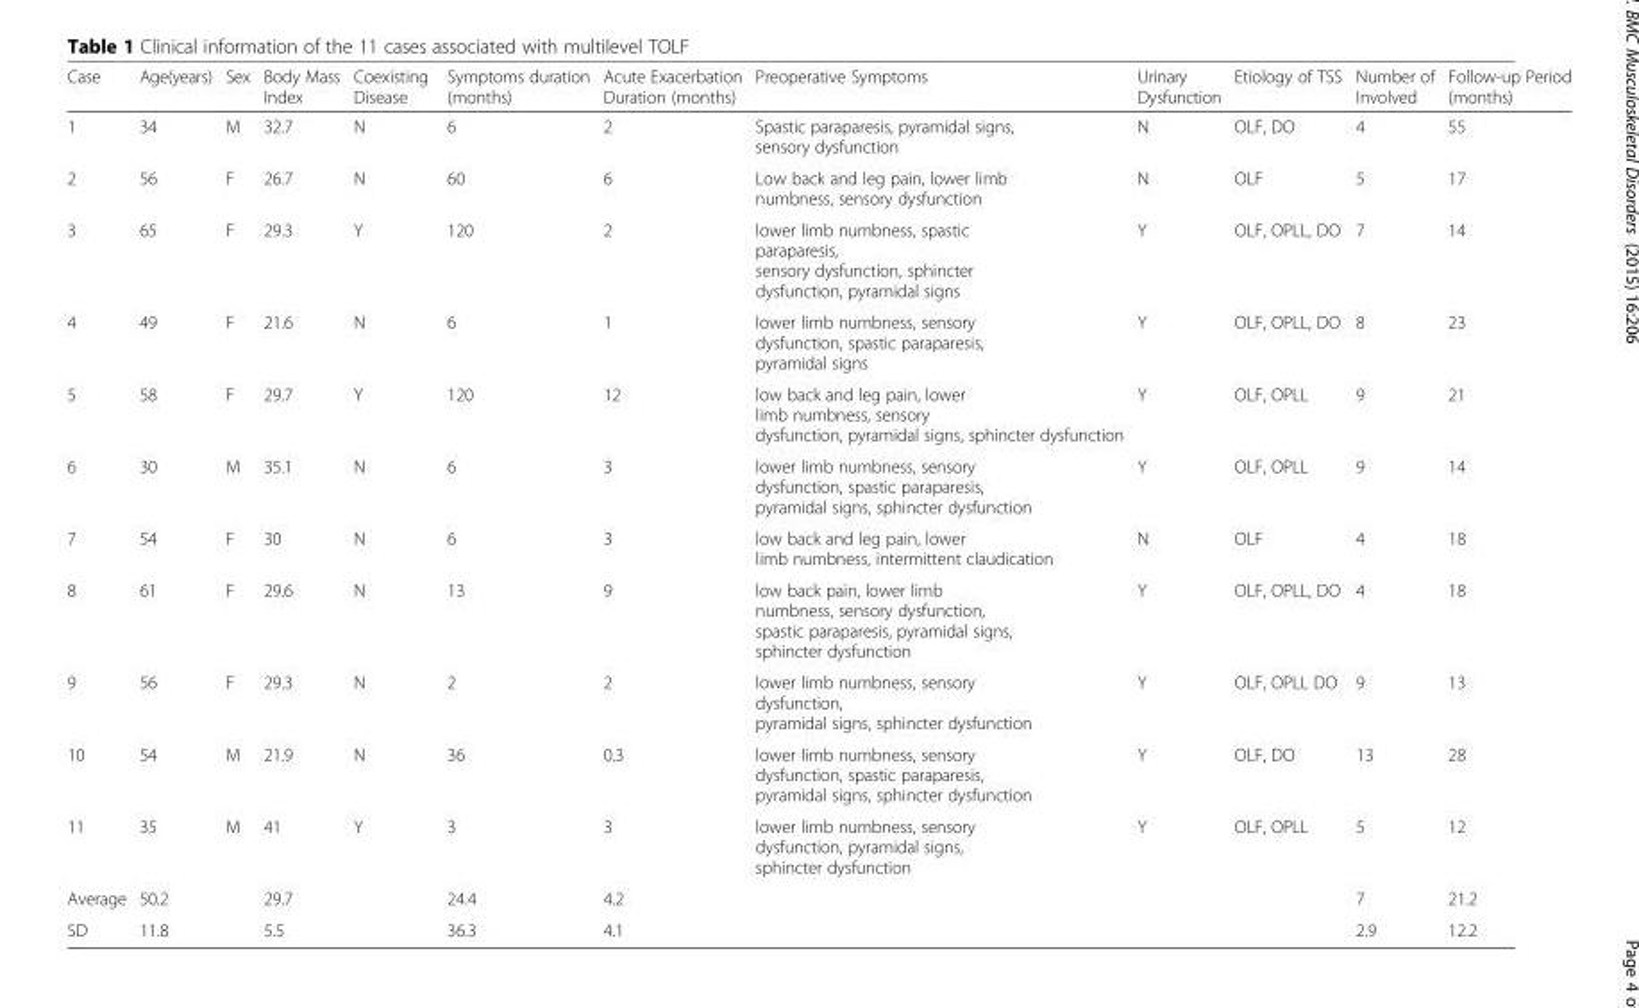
<table><thead><tr><td>Case</td><td>Age(years)</td><td>Sex</td><td>Body Mass Index</td><td>Coexisting Disease</td><td>Symptoms duration (months)</td><td>Acute Exacerbation Duration (months)</td><td>Preoperative Symptoms</td><td>Urinary Dysfunction</td><td>Etiology of TSS</td><td>Number of Involved</td><td>Follow-up Period (months)</td></tr></thead><tbody><tr><td>1</td><td>34</td><td>M</td><td>32.7</td><td>N</td><td>6</td><td>2</td><td>Spastic paraparesis, pyramidal signs, sensory dysfunction</td><td>N</td><td>OLF, DO</td><td>4</td><td>55</td></tr><tr><td>2</td><td>56</td><td>F</td><td>26.7</td><td>N</td><td>60</td><td>6</td><td>Low back and leg pain, lower limb numbness, sensory dysfunction</td><td>N</td><td>OLF</td><td>5</td><td>17</td></tr><tr><td>3</td><td>65</td><td>F</td><td>29.3</td><td>Y</td><td>120</td><td>2</td><td>lower limb numbness, spastic paraparesis, sensory dysfunction, sphincter dysfunction, pyramidal signs</td><td>Y</td><td>OLF, OPLL, DO</td><td>7</td><td>14</td></tr><tr><td>4</td><td>49</td><td>F</td><td>21.6</td><td>N</td><td>6</td><td>1</td><td>lower limb numbness, sensory dysfunction, spastic paraparesis, pyramidal signs</td><td>Y</td><td>OLF, OPLL, DO</td><td>8</td><td>23</td></tr><tr><td>5</td><td>58</td><td>F</td><td>29.7</td><td>Y</td><td>120</td><td>12</td><td>low back and leg pain, lower limb numbness, sensory dysfunction, pyramidal signs, sphincter dysfunction</td><td>Y</td><td>OLF, OPLL</td><td>9</td><td>21</td></tr><tr><td>6</td><td>30</td><td>M</td><td>35.1</td><td>N</td><td>6</td><td>3</td><td>lower limb numbness, sensory dysfunction, spastic paraparesis, pyramidal signs, sphincter dysfunction</td><td>Y</td><td>OLF, OPLL</td><td>9</td><td>14</td></tr><tr><td>7</td><td>54</td><td>F</td><td>30</td><td>N</td><td>6</td><td>3</td><td>low back and leg pain, lower limb numbness, intermittent claudication</td><td>N</td><td>OLF</td><td>4</td><td>18</td></tr><tr><td>8</td><td>61</td><td>F</td><td>29.6</td><td>N</td><td>13</td><td>9</td><td>low back pain, lower limb numbness, sensory dysfunction, spastic paraparesis, pyramidal signs, sphincter dysfunction</td><td>Y</td><td>OLF, OPLL, DO</td><td>4</td><td>18</td></tr><tr><td>9</td><td>56</td><td>F</td><td>29.3</td><td>N</td><td>2</td><td>2</td><td>lower limb numbness, sensory dysfunction, pyramidal signs, sphincter dysfunction</td><td>Y</td><td>OLF, OPLL DO</td><td>9</td><td>13</td></tr><tr><td>10</td><td>54</td><td>M</td><td>21.9</td><td>N</td><td>36</td><td>0.3</td><td>lower limb numbness, sensory dysfunction, spastic paraparesis, pyramidal signs, sphincter dysfunction</td><td>Y</td><td>OLF, DO</td><td>13</td><td>28</td></tr><tr><td>11</td><td>35</td><td>M</td><td>41</td><td>Y</td><td>3</td><td>3</td><td>lower limb numbness, sensory dysfunction, pyramidal signs, sphincter dysfunction</td><td>Y</td><td>OLF, OPLL</td><td>5</td><td>12</td></tr><tr><td>Average</td><td>50.2</td><td></td><td>29.7</td><td></td><td>24.4</td><td>4.2</td><td></td><td></td><td></td><td>7</td><td>21.2</td></tr><tr><td>SD</td><td>11.8</td><td></td><td>5.5</td><td></td><td>36.3</td><td>4.1</td><td></td><td></td><td></td><td>2.9</td><td>12.2</td></tr></tbody></table>